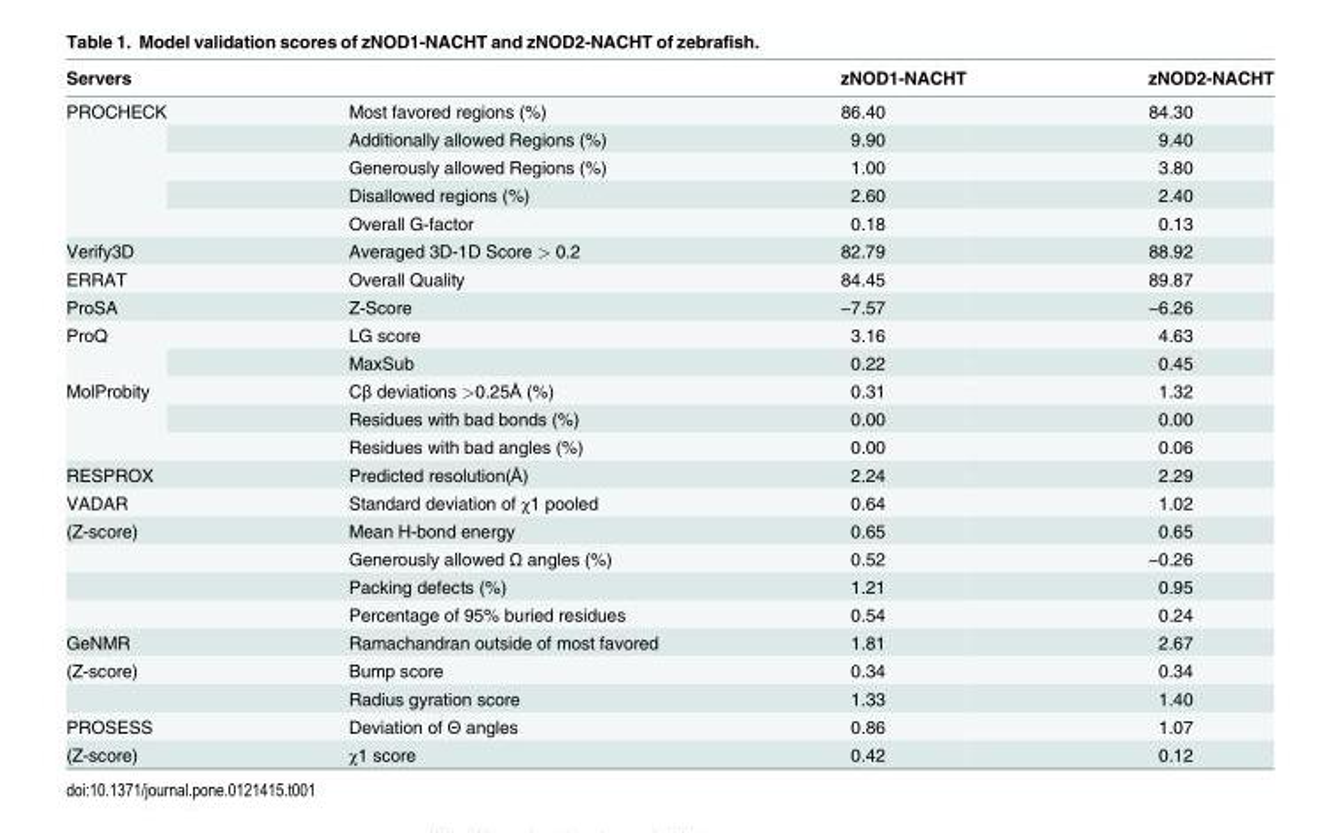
<table><thead><tr><td>Servers</td><td></td><td>zNOD1-NACHT</td><td>zNOD2-NACHT</td></tr></thead><tbody><tr><td rowspan="5">PROCHECK</td><td>Most favored regions (%)</td><td>86.40</td><td>84.30</td></tr><tr><td>Additionally allowed Regions (%)</td><td>9.90</td><td>9.40</td></tr><tr><td>Generously allowed Regions (%)</td><td>1.00</td><td>3.80</td></tr><tr><td>Disallowed regions (%)</td><td>2.60</td><td>2.40</td></tr><tr><td>Overall G-factor</td><td>0.18</td><td>0.13</td></tr><tr><td>Verify3D</td><td>Averaged 3D-1D Score &gt; 0.2</td><td>82.79</td><td>88.92</td></tr><tr><td>ERRAT</td><td>Overall Quality</td><td>84.45</td><td>89.87</td></tr><tr><td>ProSA</td><td>Z-Score</td><td>−7.57</td><td>−6.26</td></tr><tr><td rowspan="2">ProQ</td><td>LG score</td><td>3.16</td><td>4.63</td></tr><tr><td>MaxSub</td><td>0.22</td><td>0.45</td></tr><tr><td rowspan="3">MolProbity</td><td>Cβ deviations &gt;0.25Å (%)</td><td>0.31</td><td>1.32</td></tr><tr><td>Residues with bad bonds (%)</td><td>0.00</td><td>0.00</td></tr><tr><td>Residues with bad angles (%)</td><td>0.00</td><td>0.06</td></tr><tr><td>RESPROX</td><td>Predicted resolution(Å)</td><td>2.24</td><td>2.29</td></tr><tr><td>VADAR</td><td>Standard deviation of χ1 pooled</td><td>0.64</td><td>1.02</td></tr><tr><td rowspan="4">(Z-score)</td><td>Mean H-bond energy</td><td>0.65</td><td>0.65</td></tr><tr><td>Generously allowed Ω angles (%)</td><td>0.52</td><td>−0.26</td></tr><tr><td>Packing defects (%)</td><td>1.21</td><td>0.95</td></tr><tr><td>Percentage of 95% buried residues</td><td>0.54</td><td>0.24</td></tr><tr><td>GeNMR</td><td>Ramachandran outside of most favored</td><td>1.81</td><td>2.67</td></tr><tr><td rowspan="2">(Z-score)</td><td>Bump score</td><td>0.34</td><td>0.34</td></tr><tr><td>Radius gyration score</td><td>1.33</td><td>1.40</td></tr><tr><td>PROSESS</td><td>Deviation of Θ angles</td><td>0.86</td><td>1.07</td></tr><tr><td>(Z-score)</td><td>χ1 score</td><td>0.42</td><td>0.12</td></tr></tbody></table>